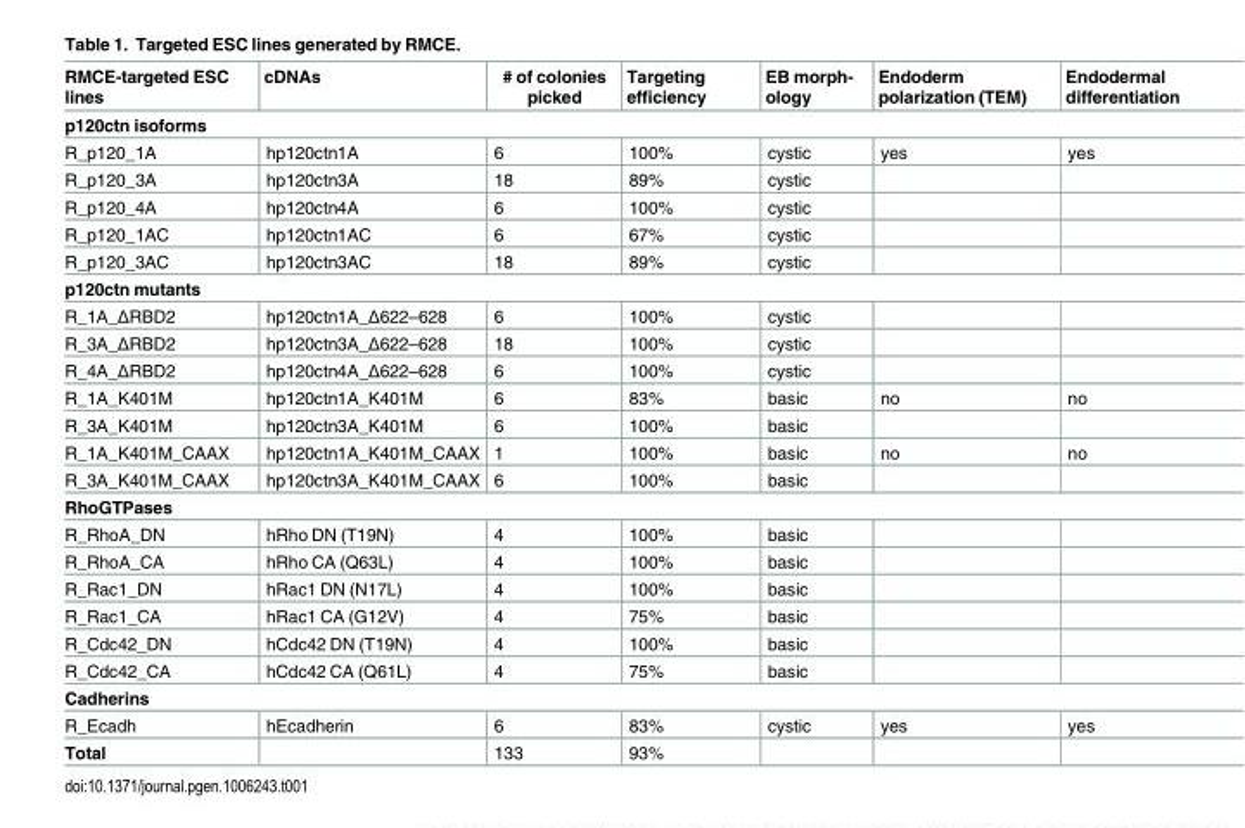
<table><thead><tr><td>RMCE-targeted ESC lines</td><td>cDNAs</td><td># of colonies picked</td><td>Targeting efficiency</td><td>EB morph- ology</td><td>Endoderm polarization (TEM)</td><td>Endodermal differentiation</td></tr></thead><tbody><tr><td colspan="7">p120ctn isoforms</td></tr><tr><td>R_p120_1A</td><td>hp120ctn1A</td><td>6</td><td>100%</td><td>cystic</td><td>yes</td><td>yes</td></tr><tr><td>R_p120_3A</td><td>hp120ctn3A</td><td>18</td><td>89%</td><td>cystic</td><td></td><td></td></tr><tr><td>R_p120_4A</td><td>hp120ctn4A</td><td>6</td><td>100%</td><td>cystic</td><td></td><td></td></tr><tr><td>R_p120_1AC</td><td>hp120ctn1AC</td><td>6</td><td>67%</td><td>cystic</td><td></td><td></td></tr><tr><td>R_p120_3AC</td><td>hp120ctn3AC</td><td>18</td><td>89%</td><td>cystic</td><td></td><td></td></tr><tr><td colspan="7">p120ctn mutants</td></tr><tr><td>R_1A_ΔRBD2</td><td>hp120ctn1A_Δ622–628</td><td>6</td><td>100%</td><td>cystic</td><td></td><td></td></tr><tr><td>R_3A_ΔRBD2</td><td>hp120ctn3A_Δ622–628</td><td>18</td><td>100%</td><td>cystic</td><td></td><td></td></tr><tr><td>R_4A_ΔRBD2</td><td>hp120ctn4A_Δ622–628</td><td>6</td><td>100%</td><td>cystic</td><td></td><td></td></tr><tr><td>R_1A_K401M</td><td>hp120ctn1A_K401M</td><td>6</td><td>83%</td><td>basic</td><td>no</td><td>no</td></tr><tr><td>R_3A_K401M</td><td>hp120ctn3A_K401M</td><td>6</td><td>100%</td><td>basic</td><td></td><td></td></tr><tr><td>R_1A_K401M_CAAX</td><td>hp120ctn1A_K401M_CAAX</td><td>1</td><td>100%</td><td>basic</td><td>no</td><td>no</td></tr><tr><td>R_3A_K401M_CAAX</td><td>hp120ctn3A_K401M_CAAX</td><td>6</td><td>100%</td><td>basic</td><td></td><td></td></tr><tr><td colspan="7">RhoGTPases</td></tr><tr><td>R_RhoA_DN</td><td>hRho DN (T19N)</td><td>4</td><td>100%</td><td>basic</td><td></td><td></td></tr><tr><td>R_RhoA_CA</td><td>hRho CA (Q63L)</td><td>4</td><td>100%</td><td>basic</td><td></td><td></td></tr><tr><td>R_Rac1_DN</td><td>hRac1 DN (N17L)</td><td>4</td><td>100%</td><td>basic</td><td></td><td></td></tr><tr><td>R_Rac1_CA</td><td>hRac1 CA (G12V)</td><td>4</td><td>75%</td><td>basic</td><td></td><td></td></tr><tr><td>R_Cdc42_DN</td><td>hCdc42 DN (T19N)</td><td>4</td><td>100%</td><td>basic</td><td></td><td></td></tr><tr><td>R_Cdc42_CA</td><td>hCdc42 CA (Q61L)</td><td>4</td><td>75%</td><td>basic</td><td></td><td></td></tr><tr><td colspan="7">Cadherins</td></tr><tr><td>R_Ecadh</td><td>hEcadherin</td><td>6</td><td>83%</td><td>cystic</td><td>yes</td><td>yes</td></tr><tr><td>Total</td><td></td><td>133</td><td>93%</td><td></td><td></td><td></td></tr></tbody></table>